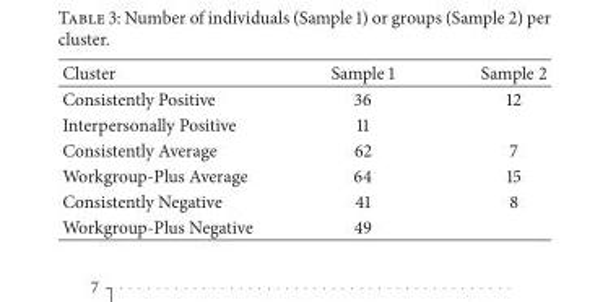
<table><thead><tr><td>Cluster</td><td>Sample 1</td><td>Sample 2</td></tr></thead><tbody><tr><td>Consistently Positive</td><td>36</td><td>12</td></tr><tr><td>Interpersonally Positive</td><td>11</td><td></td></tr><tr><td>Consistently Average</td><td>62</td><td>7</td></tr><tr><td>Workgroup-Plus Average</td><td>64</td><td>15</td></tr><tr><td>Consistently Negative</td><td>41</td><td>8</td></tr><tr><td>Workgroup-Plus Negative</td><td>49</td><td></td></tr></tbody></table>